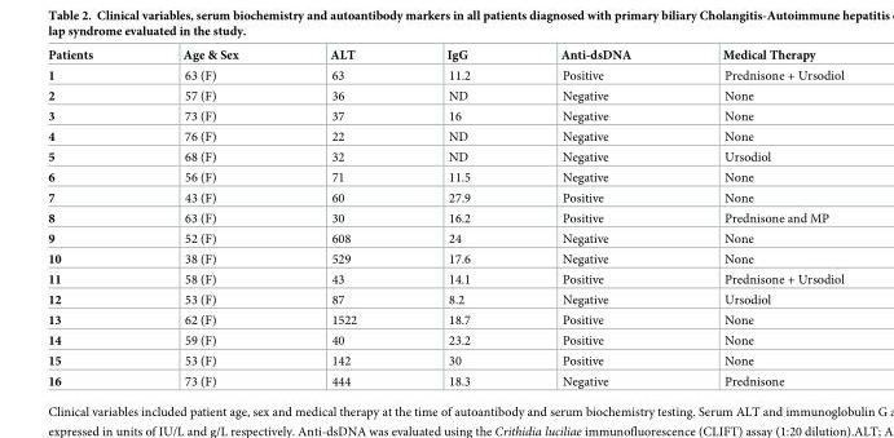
<table><thead><tr><td>Patients</td><td>Age &amp; Sex</td><td>ALT</td><td>IgG</td><td>Anti-dsDNA</td><td>Medical Therapy</td></tr></thead><tbody><tr><td>1</td><td>63 (F)</td><td>63</td><td>11.2</td><td>Positive</td><td>Prednisone + Ursodiol</td></tr><tr><td>2</td><td>57 (F)</td><td>36</td><td>ND</td><td>Negative</td><td>None</td></tr><tr><td>3</td><td>73 (F)</td><td>37</td><td>16</td><td>Negative</td><td>None</td></tr><tr><td>4</td><td>76 (F)</td><td>22</td><td>ND</td><td>Negative</td><td>None</td></tr><tr><td>5</td><td>68 (F)</td><td>32</td><td>ND</td><td>Negative</td><td>Ursodiol</td></tr><tr><td>6</td><td>56 (F)</td><td>71</td><td>11.5</td><td>Negative</td><td>None</td></tr><tr><td>7</td><td>43 (F)</td><td>60</td><td>27.9</td><td>Positive</td><td>None</td></tr><tr><td>8</td><td>63 (F)</td><td>30</td><td>16.2</td><td>Positive</td><td>Prednisone and MP</td></tr><tr><td>9</td><td>52 (F)</td><td>608</td><td>24</td><td>Negative</td><td>None</td></tr><tr><td>10</td><td>38 (F)</td><td>529</td><td>17.6</td><td>Negative</td><td>None</td></tr><tr><td>11</td><td>58 (F)</td><td>43</td><td>14.1</td><td>Positive</td><td>Prednisone + Ursodiol</td></tr><tr><td>12</td><td>53 (F)</td><td>87</td><td>8.2</td><td>Negative</td><td>Ursodiol</td></tr><tr><td>13</td><td>62 (F)</td><td>1522</td><td>18.7</td><td>Positive</td><td>None</td></tr><tr><td>14</td><td>59 (F)</td><td>40</td><td>23.2</td><td>Positive</td><td>None</td></tr><tr><td>15</td><td>53 (F)</td><td>142</td><td>30</td><td>Positive</td><td>None</td></tr><tr><td>16</td><td>73 (F)</td><td>444</td><td>18.3</td><td>Negative</td><td>Prednisone</td></tr></tbody></table>